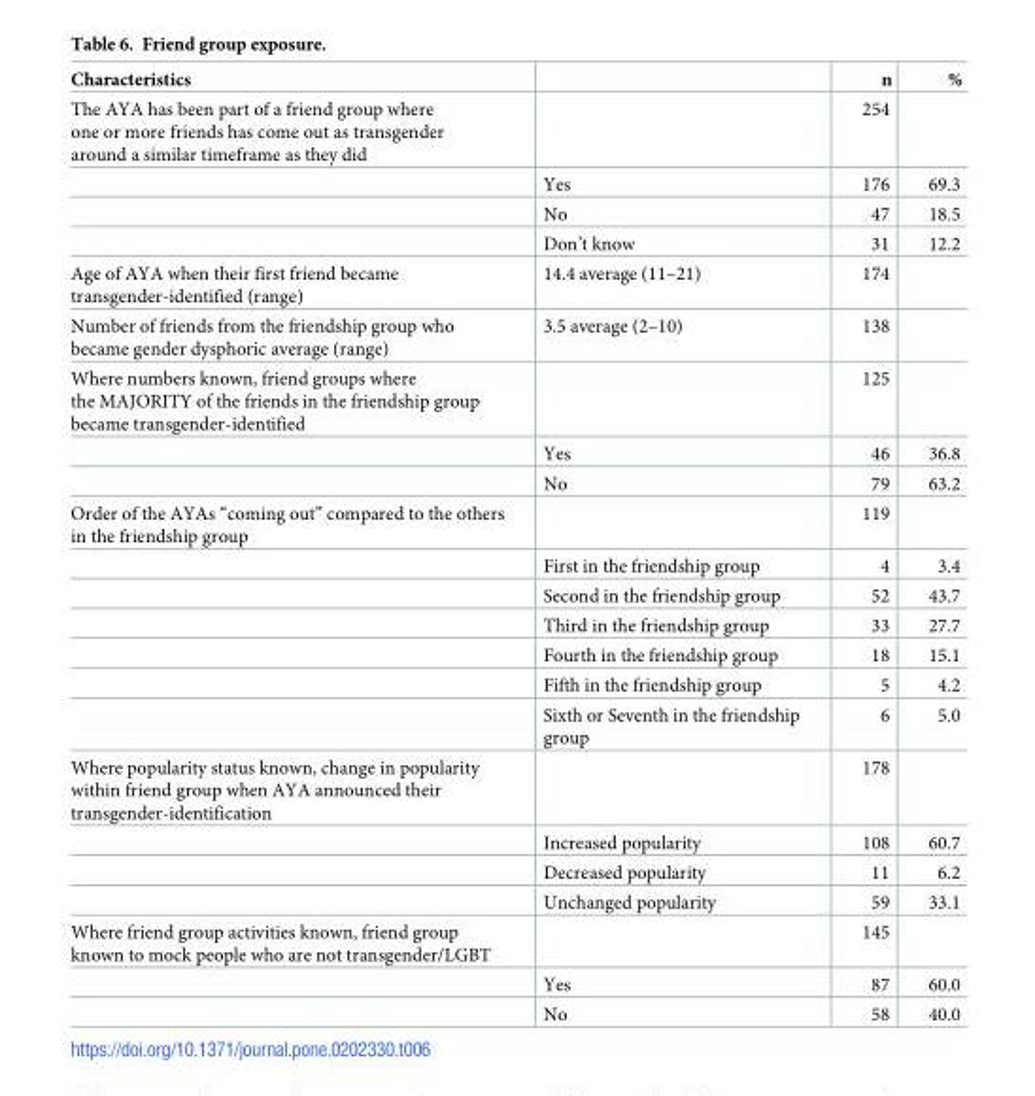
<table><thead><tr><td>Characteristics</td><td></td><td>n</td><td>%</td></tr></thead><tbody><tr><td rowspan="4">The AYA has been part of a friend group where one or more friends has come out as transgender around a similar timeframe as they did</td><td></td><td>254</td><td></td></tr><tr><td>Yes</td><td>176</td><td>69.3</td></tr><tr><td>No</td><td>47</td><td>18.5</td></tr><tr><td>Don’t know</td><td>31</td><td>12.2</td></tr><tr><td>Age of AYA when their first friend became transgender-identified (range)</td><td>14.4 average (11–21)</td><td>174</td><td></td></tr><tr><td>Number of friends from the friendship group who became gender dysphoric average (range)</td><td>3.5 average (2–10)</td><td>138</td><td></td></tr><tr><td rowspan="3">Where numbers known, friend groups where the MAJORITY of the friends in the friendship group became transgender-identified</td><td></td><td>125</td><td></td></tr><tr><td>Yes</td><td>46</td><td>36.8</td></tr><tr><td>No</td><td>79</td><td>63.2</td></tr><tr><td rowspan="7">Order of the AYAs “coming out” compared to the others in the friendship group</td><td></td><td>119</td><td></td></tr><tr><td>First in the friendship group</td><td>4</td><td>3.4</td></tr><tr><td>Second in the friendship group</td><td>52</td><td>43.7</td></tr><tr><td>Third in the friendship group</td><td>33</td><td>27.7</td></tr><tr><td>Fourth in the friendship group</td><td>18</td><td>15.1</td></tr><tr><td>Fifth in the friendship group</td><td>5</td><td>4.2</td></tr><tr><td>Sixth or Seventh in the friendship group</td><td>6</td><td>5.0</td></tr><tr><td rowspan="4">Where popularity status known, change in popularity within friend group when AYA announced their transgender-identification</td><td></td><td>178</td><td></td></tr><tr><td>Increased popularity</td><td>108</td><td>60.7</td></tr><tr><td>Decreased popularity</td><td>11</td><td>6.2</td></tr><tr><td>Unchanged popularity</td><td>59</td><td>33.1</td></tr><tr><td rowspan="3">Where friend group activities known, friend group known to mock people who are not transgender/LGBT</td><td></td><td>145</td><td></td></tr><tr><td>Yes</td><td>87</td><td>60.0</td></tr><tr><td>No</td><td>58</td><td>40.0</td></tr></tbody></table>